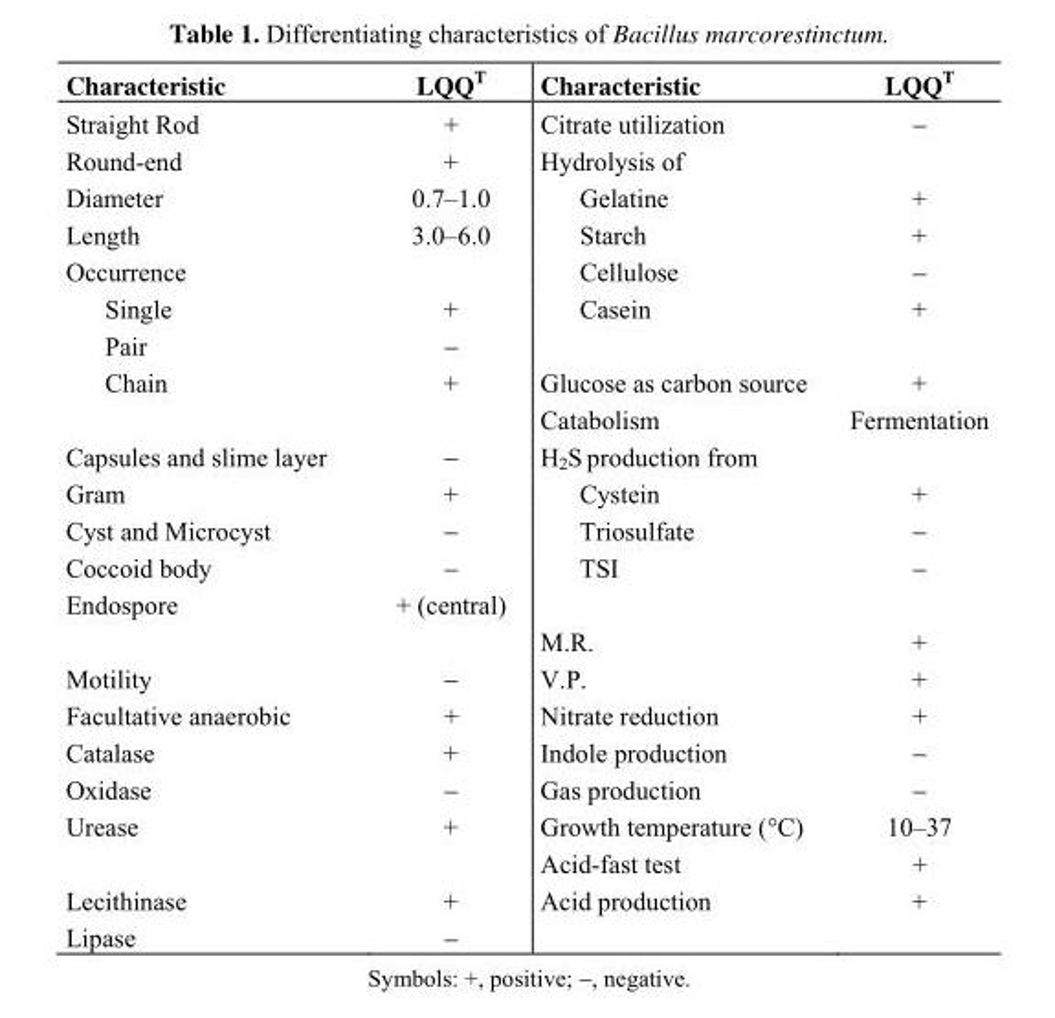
<table><thead><tr><td>Characteristic</td><td>LQQ<sup>T</sup></td><td>Characteristic</td><td>LQQ<sup>T</sup></td></tr></thead><tbody><tr><td>Straight Rod</td><td>+</td><td>Citrate utilization</td><td>−</td></tr><tr><td>Round-end</td><td>+</td><td>Hydrolysis of</td><td></td></tr><tr><td>Diameter</td><td>0.7–1.0</td><td>Gelatine</td><td>+</td></tr><tr><td>Length</td><td>3.0–6.0</td><td>Starch</td><td>+</td></tr><tr><td>Occurrence</td><td></td><td>Cellulose</td><td>−</td></tr><tr><td>Single</td><td>+</td><td>Casein</td><td>+</td></tr><tr><td>Pair</td><td>−</td><td></td><td></td></tr><tr><td rowspan="2">Chain</td><td>+</td><td>Glucose as carbon source</td><td>+</td></tr><tr><td></td><td>Catabolism</td><td>Fermentation</td></tr><tr><td>Capsules and slime layer</td><td>−</td><td>H<sub>2</sub>S production from</td><td></td></tr><tr><td>Gram</td><td>+</td><td>Cystein</td><td>+</td></tr><tr><td>Cyst and Microcyst</td><td>−</td><td>Triosulfate</td><td>−</td></tr><tr><td>Coccoid body</td><td>−</td><td>TSI</td><td>−</td></tr><tr><td rowspan="2">Endospore</td><td>+ (central)</td><td></td><td></td></tr><tr><td></td><td>M.R.</td><td>+</td></tr><tr><td>Motility</td><td>−</td><td>V.P.</td><td>+</td></tr><tr><td>Facultative anaerobic</td><td>+</td><td>Nitrate reduction</td><td>+</td></tr><tr><td>Catalase</td><td>+</td><td>Indole production</td><td>−</td></tr><tr><td>Oxidase</td><td>−</td><td>Gas production</td><td>−</td></tr><tr><td rowspan="2">Urease</td><td>+</td><td>Growth temperature (°C)</td><td>10–37</td></tr><tr><td></td><td>Acid-fast test</td><td>+</td></tr><tr><td>Lecithinase</td><td>+</td><td>Acid production</td><td>+</td></tr><tr><td>Lipase</td><td>−</td><td></td><td></td></tr></tbody></table>